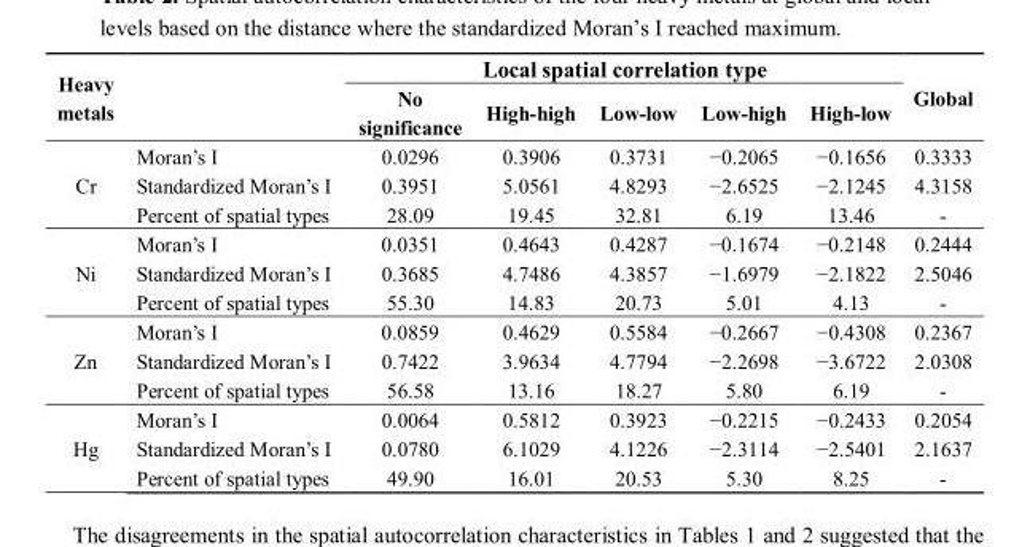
<table><thead><tr><td rowspan="2">Heavy metals</td><td rowspan="2"></td><td colspan="5">Local spatial correlation type</td><td rowspan="2">Global</td></tr><tr><td>No significance</td><td>High-high</td><td>Low-low</td><td>Low-high</td><td>High-low</td></tr></thead><tbody><tr><td rowspan="3">Cr</td><td>Moran’s I</td><td>0.0296</td><td>0.3906</td><td>0.3731</td><td>−0.2065</td><td>−0.1656</td><td>0.3333</td></tr><tr><td>Standardized Moran’s I</td><td>0.3951</td><td>5.0561</td><td>4.8293</td><td>−2.6525</td><td>−2.1245</td><td>4.3158</td></tr><tr><td>Percent of spatial types</td><td>28.09</td><td>19.45</td><td>32.81</td><td>6.19</td><td>13.46</td><td>-</td></tr><tr><td rowspan="3">Ni</td><td>Moran’s I</td><td>0.0351</td><td>0.4643</td><td>0.4287</td><td>−0.1674</td><td>−0.2148</td><td>0.2444</td></tr><tr><td>Standardized Moran’s I</td><td>0.3685</td><td>4.7486</td><td>4.3857</td><td>−1.6979</td><td>−2.1822</td><td>2.5046</td></tr><tr><td>Percent of spatial types</td><td>55.30</td><td>14.83</td><td>20.73</td><td>5.01</td><td>4.13</td><td>-</td></tr><tr><td rowspan="3">Zn</td><td>Moran’s I</td><td>0.0859</td><td>0.4629</td><td>0.5584</td><td>−0.2667</td><td>−0.4308</td><td>0.2367</td></tr><tr><td>Standardized Moran’s I</td><td>0.7422</td><td>3.9634</td><td>4.7794</td><td>−2.2698</td><td>−3.6722</td><td>2.0308</td></tr><tr><td>Percent of spatial types</td><td>56.58</td><td>13.16</td><td>18.27</td><td>5.80</td><td>6.19</td><td>-</td></tr><tr><td rowspan="3">Hg</td><td>Moran’s I</td><td>0.0064</td><td>0.5812</td><td>0.3923</td><td>−0.2215</td><td>−0.2433</td><td>0.2054</td></tr><tr><td>Standardized Moran’s I</td><td>0.0780</td><td>6.1029</td><td>4.1226</td><td>−2.3114</td><td>−2.5401</td><td>2.1637</td></tr><tr><td>Percent of spatial types</td><td>49.90</td><td>16.01</td><td>20.53</td><td>5.30</td><td>8.25</td><td>-</td></tr></tbody></table>